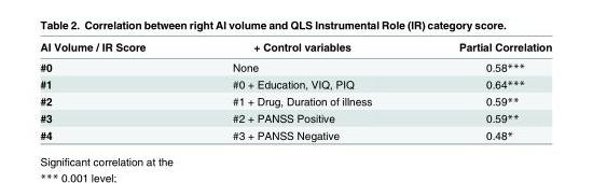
<table><thead><tr><td>AI Volume / IR Score</td><td>+ Control variables</td><td>Partial Correlation</td></tr></thead><tbody><tr><td>#0</td><td>None</td><td>0.58***</td></tr><tr><td>#1</td><td>#0 + Education, VIQ, PIQ</td><td>0.64***</td></tr><tr><td>#2</td><td>#1 + Drug, Duration of illness</td><td>0.59**</td></tr><tr><td>#3</td><td>#2 + PANSS Positive</td><td>0.59**</td></tr><tr><td>#4</td><td>#3 + PANSS Negative</td><td>0.48*</td></tr></tbody></table>